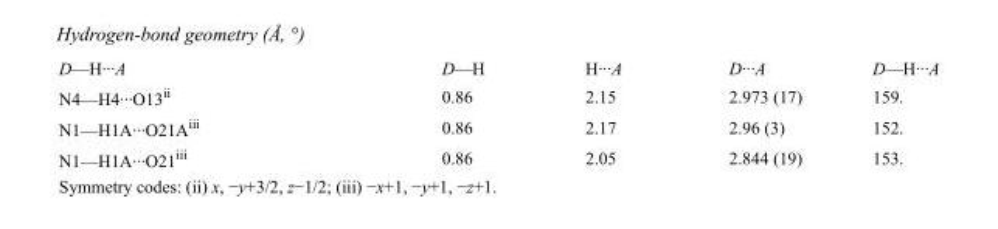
<table><tbody><tr><td>D—H···A</td><td>D—H</td><td>H···A</td><td>D···A</td><td>D—H···A</td></tr><tr><td>N4—H4···O13<sup>ii</sup></td><td>0.86</td><td>2.15</td><td>2.973 (17)</td><td>159.</td></tr><tr><td>N1—H1A···O21A<sup>iii</sup></td><td>0.86</td><td>2.17</td><td>2.96 (3)</td><td>152.</td></tr><tr><td>N1—H1A···O21<sup>iii</sup></td><td>0.86</td><td>2.05</td><td>2.844 (19)</td><td>153.</td></tr></tbody></table>